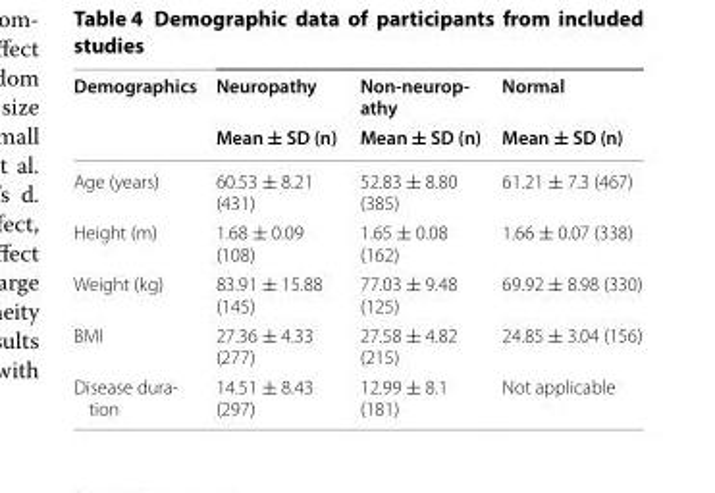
<table><thead><tr><td rowspan="2">Demographics</td><td rowspan="2">Neuropathy Mean ± SD (n)</td><td rowspan="2">Non-neurop- athy Mean ± SD (n)</td><td rowspan="2">Normal Mean ± SD (n)</td></tr><tr></tr></thead><tbody><tr><td>Age (years)</td><td>60.53 ± 8.21 (431)</td><td>52.83 ± 8.80 (385)</td><td>61.21 ± 7.3 (467)</td></tr><tr><td>Height (m)</td><td>1.68 ± 0.09 (108)</td><td>1.65 ± 0.08 (162)</td><td>1.66 ± 0.07 (338)</td></tr><tr><td>Weight (kg)</td><td>83.91 ± 15.88 (145)</td><td>77.03 ± 9.48 (125)</td><td>69.92 ± 8.98 (330)</td></tr><tr><td>BMI</td><td>27.36 ± 4.33 (277)</td><td>27.58 ± 4.82 (215)</td><td>24.85 ± 3.04 (156)</td></tr><tr><td>Disease dura- tion</td><td>14.51 ± 8.43 (297)</td><td>12.99 ± 8.1 (181)</td><td>Not applicable</td></tr></tbody></table>